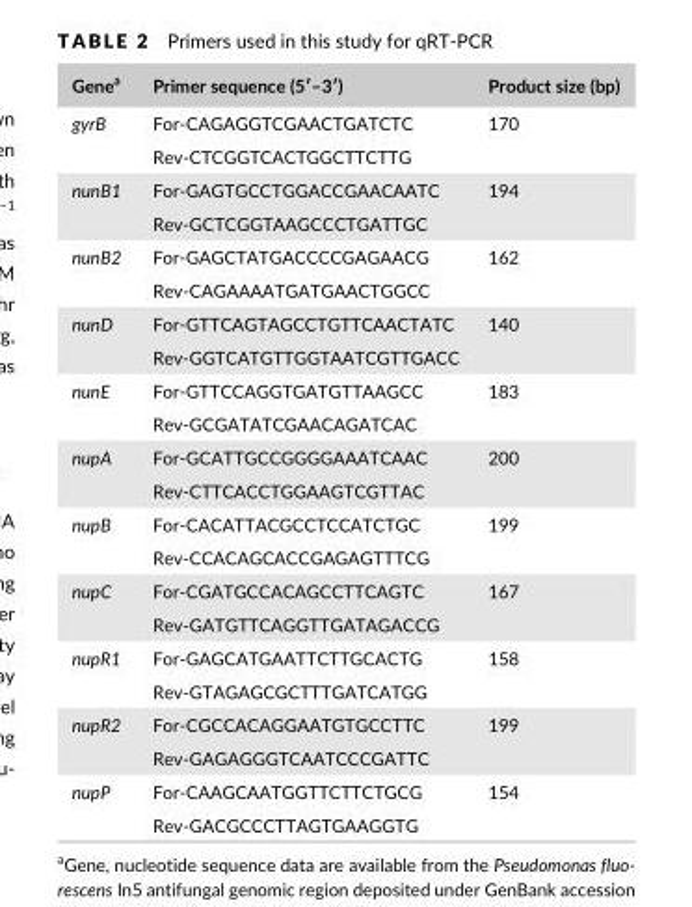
<table><thead><tr><td>Gene<sup>a</sup></td><td>Primer sequence (5′–3′)</td><td>Product size (bp)</td></tr></thead><tbody><tr><td rowspan="2">gyrB</td><td>For- CAGAGGTCGAACTGATCTC</td><td rowspan="2">170</td></tr><tr><td>Rev- CTCGGTCACTGGCTTCTTG</td></tr><tr><td rowspan="2">nunB1</td><td>For- GAGTGCCTGGACCGAACAATC</td><td rowspan="2">194</td></tr><tr><td>Rev- GCTCGGTAAGCCCTGATTGC</td></tr><tr><td rowspan="2">nunB2</td><td>For- GAGCTATGACCCCGAGAACG</td><td rowspan="2">162</td></tr><tr><td>Rev- CAGAAAATGATGAACTGGCC</td></tr><tr><td rowspan="2">nunD</td><td>For- GTTCAGTAGCCTGTTCAACTATC</td><td rowspan="2">140</td></tr><tr><td>Rev- GGTCATGTTGGTAATCGTTGACC</td></tr><tr><td rowspan="2">nunE</td><td>For- GTTCCAGGTGATGTTAAGCC</td><td rowspan="2">183</td></tr><tr><td>Rev- GCGATATCGAACAGATCAC</td></tr><tr><td rowspan="2">nupA</td><td>For- GCATTGCCGGGGAAATCAAC</td><td rowspan="2">200</td></tr><tr><td>Rev- CTTCACCTGGAAGTCGTTAC</td></tr><tr><td rowspan="2">nupB</td><td>For- CACATTACGCCTCCATCTGC</td><td rowspan="2">199</td></tr><tr><td>Rev- CCACAGCACCGAGAGTTTCG</td></tr><tr><td rowspan="2">nupC</td><td>For- CGATGCCACAGCCTTCAGTC</td><td rowspan="2">167</td></tr><tr><td>Rev- GATGTTCAGGTTGATAGACCG</td></tr><tr><td rowspan="2">nupR1</td><td>For- GAGCATGAATTCTTGCACTG</td><td rowspan="2">158</td></tr><tr><td>Rev- GTAGAGCGCTTTGATCATGG</td></tr><tr><td rowspan="2">nupR2</td><td>For- CGCCACAGGAATGTGCCTTC</td><td rowspan="2">199</td></tr><tr><td>Rev- GAGAGGGTCAATCCCGATTC</td></tr><tr><td rowspan="2">nupP</td><td>For- CAAGCAATGGTTCTTCTGCG</td><td rowspan="2">154</td></tr><tr><td>Rev- GACGCCCTTAGTGAAGGTG</td></tr></tbody></table>